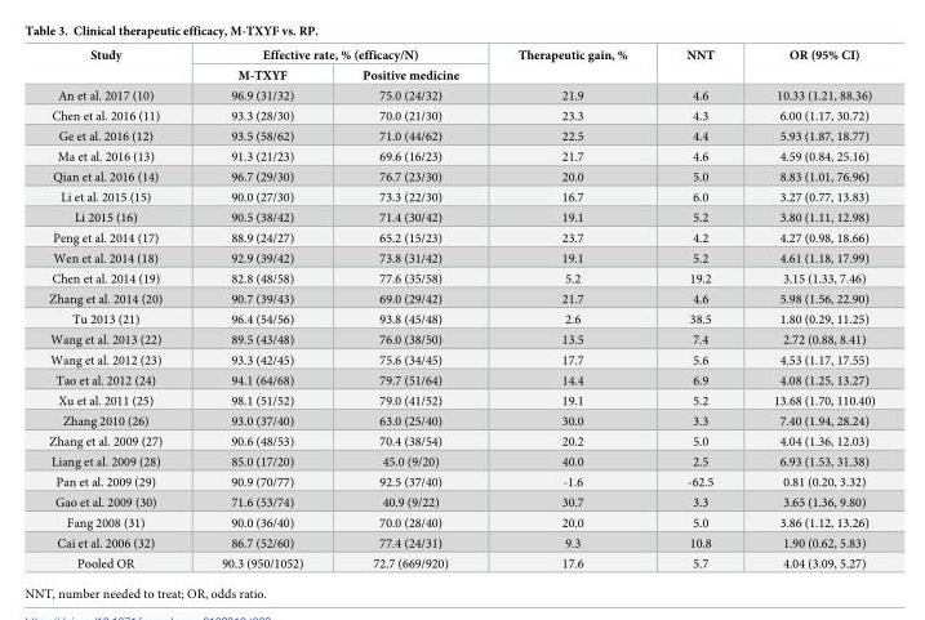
<table><thead><tr><td rowspan="2">Study</td><td colspan="2">Effective rate, % (efficacy/N)</td><td rowspan="2">Therapeutic gain, %</td><td rowspan="2">NNT</td><td rowspan="2">OR (95% CI)</td></tr><tr><td>M-TXYF</td><td>Positive medicine</td></tr></thead><tbody><tr><td>An et al. 2017 (10)</td><td>96.9 (31/32)</td><td>75.0 (24/32)</td><td>21.9</td><td>4.6</td><td>10.33 (1.21, 88.36)</td></tr><tr><td>Chen et al. 2016 (11)</td><td>93.3 (28/30)</td><td>70.0 (21/30)</td><td>23.3</td><td>4.3</td><td>6.00 (1.17, 30.72)</td></tr><tr><td>Ge et al. 2016 (12)</td><td>93.5 (58/62)</td><td>71.0 (44/62)</td><td>22.5</td><td>4.4</td><td>5.93 (1.87, 18.77)</td></tr><tr><td>Ma et al. 2016 (13)</td><td>91.3 (21/23)</td><td>69.6 (16/23)</td><td>21.7</td><td>4.6</td><td>4.59 (0.84, 25.16)</td></tr><tr><td>Qian et al. 2016 (14)</td><td>96.7 (29/30)</td><td>76.7 (23/30)</td><td>20.0</td><td>5.0</td><td>8.83 (1.01, 76.96)</td></tr><tr><td>Li et al. 2015 (15)</td><td>90.0 (27/30)</td><td>73.3 (22/30)</td><td>16.7</td><td>6.0</td><td>3.27 (0.77, 13.83)</td></tr><tr><td>Li 2015 (16)</td><td>90.5 (38/42)</td><td>71.4 (30/42)</td><td>19.1</td><td>5.2</td><td>3.80 (1.11, 12.98)</td></tr><tr><td>Peng et al. 2014 (17)</td><td>88.9 (24/27)</td><td>65.2 (15/23)</td><td>23.7</td><td>4.2</td><td>4.27 (0.98, 18.66)</td></tr><tr><td>Wen et al. 2014 (18)</td><td>92.9 (39/42)</td><td>73.8 (31/42)</td><td>19.1</td><td>5.2</td><td>4.61 (1.18, 17.99)</td></tr><tr><td>Chen et al. 2014 (19)</td><td>82.8 (48/58)</td><td>77.6 (35/58)</td><td>5.2</td><td>19.2</td><td>3.15 (1.33, 7.46)</td></tr><tr><td>Zhang et al. 2014 (20)</td><td>90.7 (39/43)</td><td>69.0 (29/42)</td><td>21.7</td><td>4.6</td><td>5.98 (1.56, 22.90)</td></tr><tr><td>Tu 2013 (21)</td><td>96.4 (54/56)</td><td>93.8 (45/48)</td><td>2.6</td><td>38.5</td><td>1.80 (0.29, 11.25)</td></tr><tr><td>Wang et al. 2013 (22)</td><td>89.5 (43/48)</td><td>76.0 (38/50)</td><td>13.5</td><td>7.4</td><td>2.72 (0.88, 8.41)</td></tr><tr><td>Wang et al. 2012 (23)</td><td>93.3 (42/45)</td><td>75.6 (34/45)</td><td>17.7</td><td>5.6</td><td>4.53 (1.17, 17.55)</td></tr><tr><td>Tao et al. 2012 (24)</td><td>94.1 (64/68)</td><td>79.7 (51/64)</td><td>14.4</td><td>6.9</td><td>4.08 (1.25, 13.27)</td></tr><tr><td>Xu et al. 2011 (25)</td><td>98.1 (51/52)</td><td>79.0 (41/52)</td><td>19.1</td><td>5.2</td><td>13.68 (1.70, 110.40)</td></tr><tr><td>Zhang 2010 (26)</td><td>93.0 (37/40)</td><td>63.0 (25/40)</td><td>30.0</td><td>3.3</td><td>7.40 (1.94, 28.24)</td></tr><tr><td>Zhang et al. 2009 (27)</td><td>90.6 (48/53)</td><td>70.4 (38/54)</td><td>20.2</td><td>5.0</td><td>4.04 (1.36, 12.03)</td></tr><tr><td>Liang et al. 2009 (28)</td><td>85.0 (17/20)</td><td>45.0 (9/20)</td><td>40.0</td><td>2.5</td><td>6.93 (1.53, 31.38)</td></tr><tr><td>Pan et al. 2009 (29)</td><td>90.9 (70/77)</td><td>92.5 (37/40)</td><td>-1.6</td><td>-62.5</td><td>0.81 (0.20, 3.32)</td></tr><tr><td>Gao et al. 2009 (30)</td><td>71.6 (53/74)</td><td>40.9 (9/22)</td><td>30.7</td><td>3.3</td><td>3.65 (1.36, 9.80)</td></tr><tr><td>Fang 2008 (31)</td><td>90.0 (36/40)</td><td>70.0 (28/40)</td><td>20.0</td><td>5.0</td><td>3.86 (1.12, 13.26)</td></tr><tr><td>Cai et al. 2006 (32)</td><td>86.7 (52/60)</td><td>77.4 (24/31)</td><td>9.3</td><td>10.8</td><td>1.90 (0.62, 5.83)</td></tr><tr><td>Pooled OR</td><td>90.3 (950/1052)</td><td>72.7 (669/920)</td><td>17.6</td><td>5.7</td><td>4.04 (3.09, 5.27)</td></tr></tbody></table>